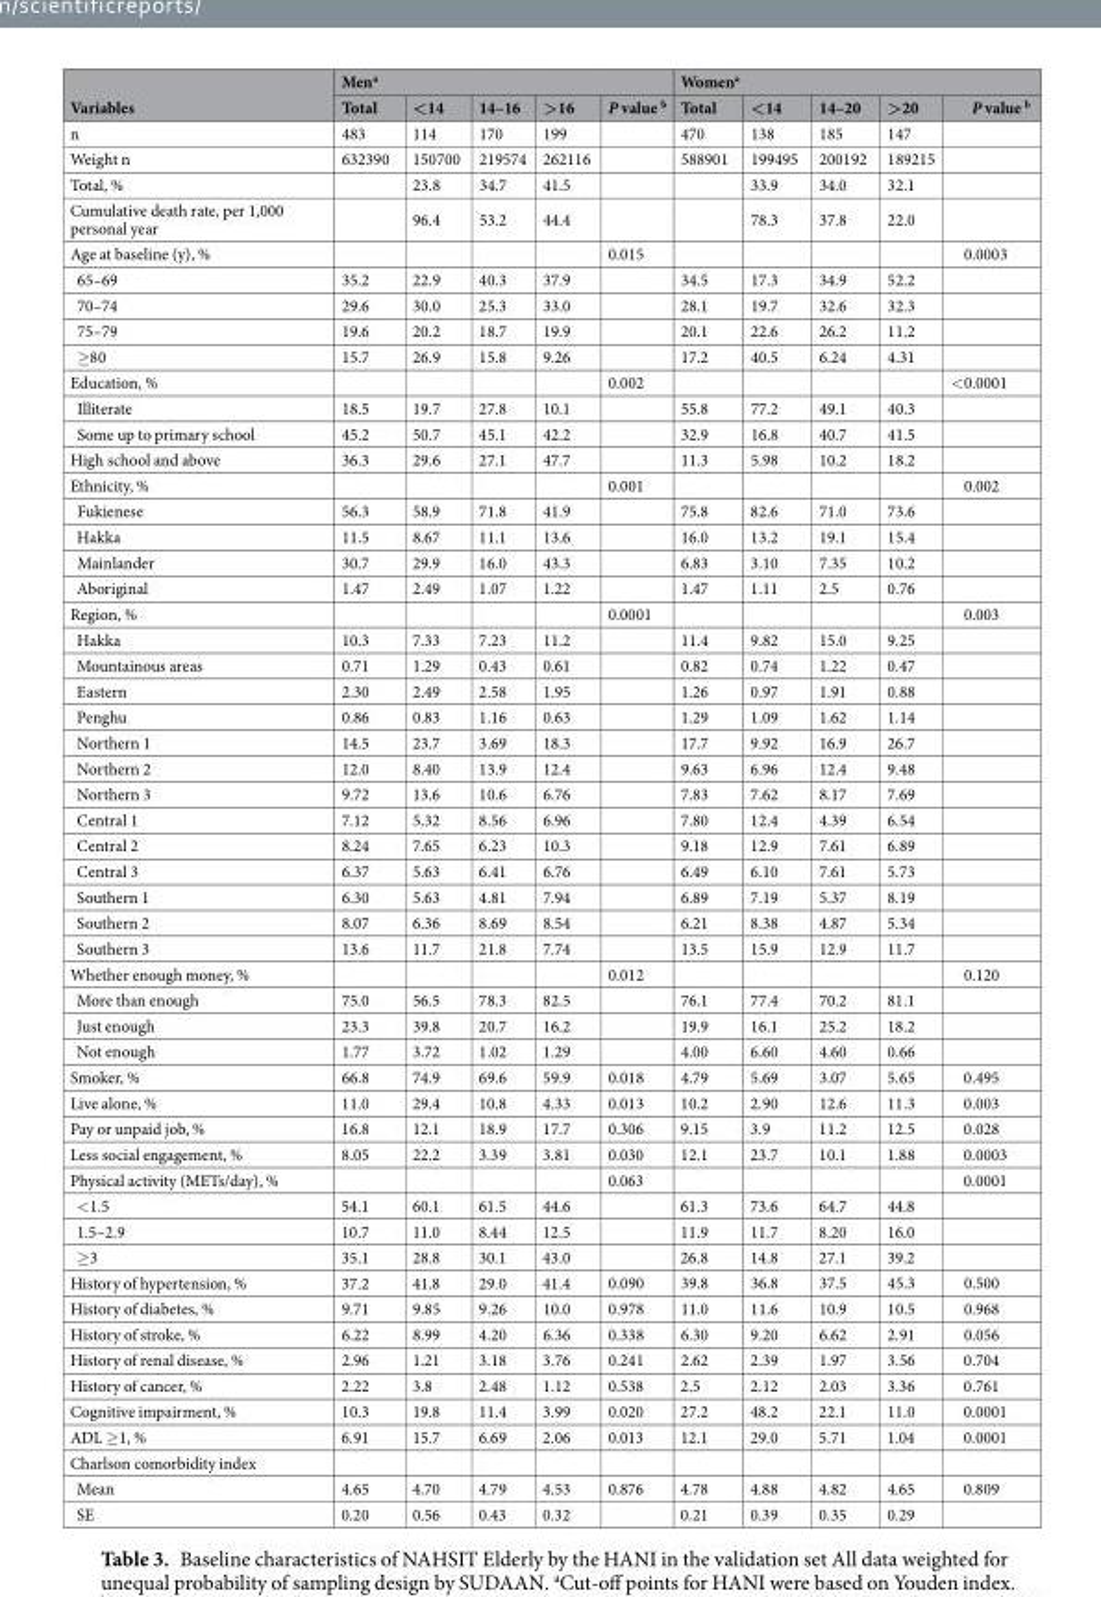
<table><thead><tr><td rowspan="2">Variables</td><td colspan="5">Men<sup>a</sup></td><td colspan="5">Women<sup>a</sup></td></tr><tr><td>Total</td><td>&lt;14</td><td>14–16</td><td>&gt;16</td><td>P value <sup>b</sup></td><td>Total</td><td>&lt;14</td><td>14–20</td><td>&gt;20</td><td>P value <sup>b</sup></td></tr></thead><tbody><tr><td>n</td><td>483</td><td>114</td><td>170</td><td>199</td><td></td><td>470</td><td>138</td><td>185</td><td>147</td><td></td></tr><tr><td>Weight n</td><td>632390</td><td>150700</td><td>219574</td><td>262116</td><td></td><td>588901</td><td>199495</td><td>200192</td><td>189215</td><td></td></tr><tr><td>Total, %</td><td></td><td>23.8</td><td>34.7</td><td>41.5</td><td></td><td></td><td>33.9</td><td>34.0</td><td>32.1</td><td></td></tr><tr><td>Cumulative death rate, per 1,000 personal year</td><td></td><td>96.4</td><td>53.2</td><td>44.4</td><td></td><td></td><td>78.3</td><td>37.8</td><td>22.0</td><td></td></tr><tr><td>Age at baseline (y), %</td><td></td><td></td><td></td><td></td><td>0.015</td><td></td><td></td><td></td><td></td><td>0.0003</td></tr><tr><td>65–69</td><td>35.2</td><td>22.9</td><td>40.3</td><td>37.9</td><td></td><td>34.5</td><td>17.3</td><td>34.9</td><td>52.2</td><td></td></tr><tr><td>70–74</td><td>29.6</td><td>30.0</td><td>25.3</td><td>33.0</td><td></td><td>28.1</td><td>19.7</td><td>32.6</td><td>32.3</td><td></td></tr><tr><td>75–79</td><td>19.6</td><td>20.2</td><td>18.7</td><td>19.9</td><td></td><td>20.1</td><td>22.6</td><td>26.2</td><td>11.2</td><td></td></tr><tr><td>≥80</td><td>15.7</td><td>26.9</td><td>15.8</td><td>9.26</td><td></td><td>17.2</td><td>40.5</td><td>6.24</td><td>4.31</td><td></td></tr><tr><td>Education, %</td><td></td><td></td><td></td><td></td><td>0.002</td><td></td><td></td><td></td><td></td><td>&lt;0.0001</td></tr><tr><td>Illiterate</td><td>18.5</td><td>19.7</td><td>27.8</td><td>10.1</td><td></td><td>55.8</td><td>77.2</td><td>49.1</td><td>40.3</td><td></td></tr><tr><td>Some up to primary school</td><td>45.2</td><td>50.7</td><td>45.1</td><td>42.2</td><td></td><td>32.9</td><td>16.8</td><td>40.7</td><td>41.5</td><td></td></tr><tr><td>High school and above</td><td>36.3</td><td>29.6</td><td>27.1</td><td>47.7</td><td></td><td>11.3</td><td>5.98</td><td>10.2</td><td>18.2</td><td></td></tr><tr><td>Ethnicity, %</td><td></td><td></td><td></td><td></td><td>0.001</td><td></td><td></td><td></td><td></td><td>0.002</td></tr><tr><td>Fukienese</td><td>56.3</td><td>58.9</td><td>71.8</td><td>41.9</td><td></td><td>75.8</td><td>82.6</td><td>71.0</td><td>73.6</td><td></td></tr><tr><td>Hakka</td><td>11.5</td><td>8.67</td><td>11.1</td><td>13.6</td><td></td><td>16.0</td><td>13.2</td><td>19.1</td><td>15.4</td><td></td></tr><tr><td>Mainlander</td><td>30.7</td><td>29.9</td><td>16.0</td><td>43.3</td><td></td><td>6.83</td><td>3.10</td><td>7.35</td><td>10.2</td><td></td></tr><tr><td>Aboriginal</td><td>1.47</td><td>2.49</td><td>1.07</td><td>1.22</td><td></td><td>1.47</td><td>1.11</td><td>2.5</td><td>0.76</td><td></td></tr><tr><td>Region, %</td><td></td><td></td><td></td><td></td><td>0.0001</td><td></td><td></td><td></td><td></td><td>0.003</td></tr><tr><td>Hakka</td><td>10.3</td><td>7.33</td><td>7.23</td><td>11.2</td><td></td><td>11.4</td><td>9.82</td><td>15.0</td><td>9.25</td><td></td></tr><tr><td>Mountainous areas</td><td>0.71</td><td>1.29</td><td>0.43</td><td>0.61</td><td></td><td>0.82</td><td>0.74</td><td>1.22</td><td>0.47</td><td></td></tr><tr><td>Eastern</td><td>2.30</td><td>2.49</td><td>2.58</td><td>1.95</td><td></td><td>1.26</td><td>0.97</td><td>1.91</td><td>0.88</td><td></td></tr><tr><td>Penghu</td><td>0.86</td><td>0.83</td><td>1.16</td><td>0.63</td><td></td><td>1.29</td><td>1.09</td><td>1.62</td><td>1.14</td><td></td></tr><tr><td>Northern 1</td><td>14.5</td><td>23.7</td><td>3.69</td><td>18.3</td><td></td><td>17.7</td><td>9.92</td><td>16.9</td><td>26.7</td><td></td></tr><tr><td>Northern 2</td><td>12.0</td><td>8.40</td><td>13.9</td><td>12.4</td><td></td><td>9.63</td><td>6.96</td><td>12.4</td><td>9.48</td><td></td></tr><tr><td>Northern 3</td><td>9.72</td><td>13.6</td><td>10.6</td><td>6.76</td><td></td><td>7.83</td><td>7.62</td><td>8.17</td><td>7.69</td><td></td></tr><tr><td>Central 1</td><td>7.12</td><td>5.32</td><td>8.56</td><td>6.96</td><td></td><td>7.80</td><td>12.4</td><td>4.39</td><td>6.54</td><td></td></tr><tr><td>Central 2</td><td>8.24</td><td>7.65</td><td>6.23</td><td>10.3</td><td></td><td>9.18</td><td>12.9</td><td>7.61</td><td>6.89</td><td></td></tr><tr><td>Central 3</td><td>6.37</td><td>5.63</td><td>6.41</td><td>6.76</td><td></td><td>6.49</td><td>6.10</td><td>7.61</td><td>5.73</td><td></td></tr><tr><td>Southern 1</td><td>6.30</td><td>5.63</td><td>4.81</td><td>7.94</td><td></td><td>6.89</td><td>7.19</td><td>5.37</td><td>8.19</td><td></td></tr><tr><td>Southern 2</td><td>8.07</td><td>6.36</td><td>8.69</td><td>8.54</td><td></td><td>6.21</td><td>8.38</td><td>4.87</td><td>5.34</td><td></td></tr><tr><td>Southern 3</td><td>13.6</td><td>11.7</td><td>21.8</td><td>7.74</td><td></td><td>13.5</td><td>15.9</td><td>12.9</td><td>11.7</td><td></td></tr><tr><td>Whether enough money, %</td><td></td><td></td><td></td><td></td><td>0.012</td><td></td><td></td><td></td><td></td><td>0.120</td></tr><tr><td>More than enough</td><td>75.0</td><td>56.5</td><td>78.3</td><td>82.5</td><td></td><td>76.1</td><td>77.4</td><td>70.2</td><td>81.1</td><td></td></tr><tr><td>Just enough</td><td>23.3</td><td>39.8</td><td>20.7</td><td>16.2</td><td></td><td>19.9</td><td>16.1</td><td>25.2</td><td>18.2</td><td></td></tr><tr><td>Not enough</td><td>1.77</td><td>3.72</td><td>1.02</td><td>1.29</td><td></td><td>4.00</td><td>6.60</td><td>4.60</td><td>0.66</td><td></td></tr><tr><td>Smoker, %</td><td>66.8</td><td>74.9</td><td>69.6</td><td>59.9</td><td>0.018</td><td>4.79</td><td>5.69</td><td>3.07</td><td>5.65</td><td>0.495</td></tr><tr><td>Live alone, %</td><td>11.0</td><td>29.4</td><td>10.8</td><td>4.33</td><td>0.013</td><td>10.2</td><td>2.90</td><td>12.6</td><td>11.3</td><td>0.003</td></tr><tr><td>Pay or unpaid job, %</td><td>16.8</td><td>12.1</td><td>18.9</td><td>17.7</td><td>0.306</td><td>9.15</td><td>3.9</td><td>11.2</td><td>12.5</td><td>0.028</td></tr><tr><td>Less social engagement, %</td><td>8.05</td><td>22.2</td><td>3.39</td><td>3.81</td><td>0.030</td><td>12.1</td><td>23.7</td><td>10.1</td><td>1.88</td><td>0.0003</td></tr><tr><td>Physical activity (METs/day), %</td><td></td><td></td><td></td><td></td><td>0.063</td><td></td><td></td><td></td><td></td><td>0.0001</td></tr><tr><td>&lt;1.5</td><td>54.1</td><td>60.1</td><td>61.5</td><td>44.6</td><td></td><td>61.3</td><td>73.6</td><td>64.7</td><td>44.8</td><td></td></tr><tr><td>1.5–2.9</td><td>10.7</td><td>11.0</td><td>8.44</td><td>12.5</td><td></td><td>11.9</td><td>11.7</td><td>8.20</td><td>16.0</td><td></td></tr><tr><td>≥3</td><td>35.1</td><td>28.8</td><td>30.1</td><td>43.0</td><td></td><td>26.8</td><td>14.8</td><td>27.1</td><td>39.2</td><td></td></tr><tr><td>History of hypertension, %</td><td>37.2</td><td>41.8</td><td>29.0</td><td>41.4</td><td>0.090</td><td>39.8</td><td>36.8</td><td>37.5</td><td>45.3</td><td>0.500</td></tr><tr><td>History of diabetes, %</td><td>9.71</td><td>9.85</td><td>9.26</td><td>10.0</td><td>0.978</td><td>11.0</td><td>11.6</td><td>10.9</td><td>10.5</td><td>0.968</td></tr><tr><td>History of stroke, %</td><td>6.22</td><td>8.99</td><td>4.20</td><td>6.36</td><td>0.338</td><td>6.30</td><td>9.20</td><td>6.62</td><td>2.91</td><td>0.056</td></tr><tr><td>History of renal disease, %</td><td>2.96</td><td>1.21</td><td>3.18</td><td>3.76</td><td>0.241</td><td>2.62</td><td>2.39</td><td>1.97</td><td>3.56</td><td>0.704</td></tr><tr><td>History of cancer, %</td><td>2.22</td><td>3.8</td><td>2.48</td><td>1.12</td><td>0.538</td><td>2.5</td><td>2.12</td><td>2.03</td><td>3.36</td><td>0.761</td></tr><tr><td>Cognitive impairment, %</td><td>10.3</td><td>19.8</td><td>11.4</td><td>3.99</td><td>0.020</td><td>27.2</td><td>48.2</td><td>22.1</td><td>11.0</td><td>0.0001</td></tr><tr><td>ADL ≥1, %</td><td>6.91</td><td>15.7</td><td>6.69</td><td>2.06</td><td>0.013</td><td>12.1</td><td>29.0</td><td>5.71</td><td>1.04</td><td>0.0001</td></tr><tr><td colspan="11">Charlson comorbidity index</td></tr><tr><td>Mean</td><td>4.65</td><td>4.70</td><td>4.79</td><td>4.53</td><td>0.876</td><td>4.78</td><td>4.88</td><td>4.82</td><td>4.65</td><td>0.809</td></tr><tr><td>SE</td><td>0.20</td><td>0.56</td><td>0.43</td><td>0.32</td><td></td><td>0.21</td><td>0.39</td><td>0.35</td><td>0.29</td><td></td></tr></tbody></table>